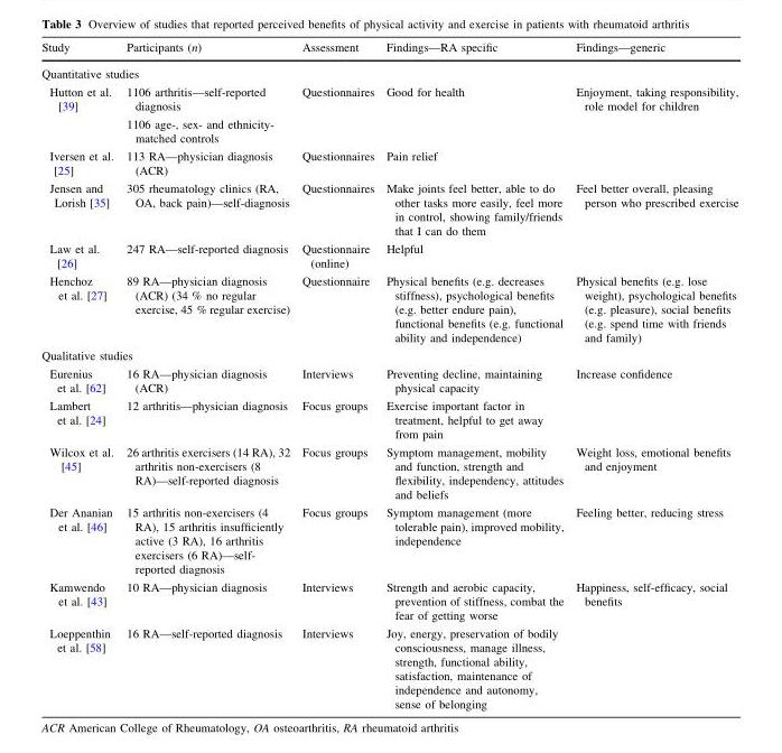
<table><thead><tr><td>Study</td><td>Participants (n)</td><td>Assessment</td><td>Findings—RA specific</td><td>Findings—generic</td></tr></thead><tbody><tr><td colspan="5">Quantitative studies</td></tr><tr><td>Hutton et al. [39]</td><td>1106 arthritis—self-reported diagnosis 1106 age-, sex- and ethnicity- matched controls</td><td>Questionnaires</td><td>Good for health</td><td>Enjoyment, taking responsibility, role model for children</td></tr><tr><td>Iversen et al. [25]</td><td>113 RA—physician diagnosis (ACR)</td><td>Questionnaires</td><td>Pain relief</td><td></td></tr><tr><td>Jensen and Lorish [35]</td><td>305 rheumatology clinics (RA, OA, back pain)—self-diagnosis</td><td>Questionnaires</td><td>Make joints feel better, able to do other tasks more easily, feel more in control, showing family/friends that I can do them</td><td>Feel better overall, pleasing person who prescribed exercise</td></tr><tr><td>Law et al. [26]</td><td>247 RA—self-reported diagnosis</td><td>Questionnaire (online)</td><td>Helpful</td><td></td></tr><tr><td>Henchoz et al. [27]</td><td>89 RA—physician diagnosis (ACR) (34 % no regular exercise, 45 % regular exercise)</td><td>Questionnaire</td><td>Physical benefits (e.g. decreases stiffness), psychological benefits (e.g. better endure pain), functional benefits (e.g. functional ability and independence)</td><td>Physical benefits (e.g. lose weight), psychological benefits (e.g. pleasure), social benefits (e.g. spend time with friends and family)</td></tr><tr><td colspan="5">Qualitative studies</td></tr><tr><td>Eurenius et al. [62]</td><td>16 RA—physician diagnosis (ACR)</td><td>Interviews</td><td>Preventing decline, maintaining physical capacity</td><td>Increase confidence</td></tr><tr><td>Lambert et al. [24]</td><td>12 arthritis—physician diagnosis</td><td>Focus groups</td><td>Exercise important factor in treatment, helpful to get away from pain</td><td></td></tr><tr><td>Wilcox et al. [45]</td><td>26 arthritis exercisers (14 RA), 32 arthritis non-exercisers (8 RA)—self-reported diagnosis</td><td>Focus groups</td><td>Symptom management, mobility and function, strength and flexibility, independency, attitudes and beliefs</td><td>Weight loss, emotional benefits and enjoyment</td></tr><tr><td>Der Ananian et al. [46]</td><td>15 arthritis non-exercisers (4 RA), 15 arthritis insufficiently active (3 RA), 16 arthritis exercisers (6 RA)—self- reported diagnosis</td><td>Focus groups</td><td>Symptom management (more tolerable pain), improved mobility, independence</td><td>Feeling better, reducing stress</td></tr><tr><td>Kamwendo et al. [43]</td><td>10 RA—physician diagnosis</td><td>Interviews</td><td>Strength and aerobic capacity, prevention of stiffness, combat the fear of getting worse</td><td>Happiness, self-efficacy, social benefits</td></tr><tr><td>Loeppenthin et al. [58]</td><td>16 RA—self-reported diagnosis</td><td>Interviews</td><td>Joy, energy, preservation of bodily consciousness, manage illness, strength, functional ability, satisfaction, maintenance of independence and autonomy, sense of belonging</td><td></td></tr></tbody></table>